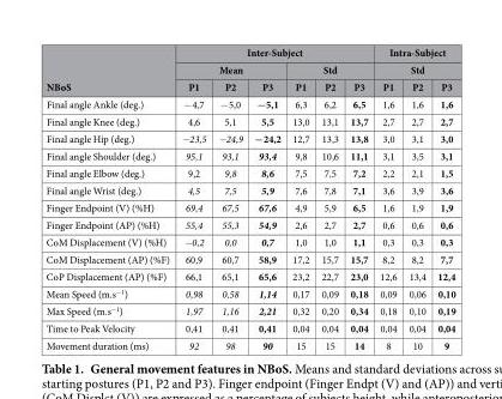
<table><thead><tr><td rowspan="3">NBoS</td><td colspan="6">Inter-Subject</td><td rowspan="2" colspan="3">Intra-Subject Std</td></tr><tr><td colspan="3">Mean</td><td colspan="3">Std</td></tr><tr><td>P1</td><td>P2</td><td>P3</td><td>P1</td><td>P2</td><td>P3</td><td>P1</td><td>P2</td><td>P3</td></tr></thead><tbody><tr><td>Final angle Ankle (deg.)</td><td>− 4,7</td><td>− 5,0</td><td>−5,1</td><td>6,3</td><td>6,2</td><td>6,5</td><td>1,6</td><td>1,6</td><td>1,6</td></tr><tr><td>Final angle Knee (deg.)</td><td>4,6</td><td>5,1</td><td>5,5</td><td>13,0</td><td>13,1</td><td>13,7</td><td>2,7</td><td>2,7</td><td>2,7</td></tr><tr><td>Final angle Hip (deg.)</td><td>−23,5</td><td>−24,9</td><td>−24,2</td><td>12,7</td><td>13,3</td><td>13,8</td><td>3,0</td><td>3,1</td><td>3,0</td></tr><tr><td>Final angle Shoulder (deg.)</td><td>95,1</td><td>93,1</td><td>93,4</td><td>9,8</td><td>10,6</td><td>11,1</td><td>3,1</td><td>3,5</td><td>3,1</td></tr><tr><td>Final angle Elbow (deg.)</td><td>9,2</td><td>9,8</td><td>8,6</td><td>7,5</td><td>7,5</td><td>7,2</td><td>2,2</td><td>2,1</td><td>1,5</td></tr><tr><td>Final angle Wrist (deg.)</td><td>4,5</td><td>7,5</td><td>5,9</td><td>7,6</td><td>7,8</td><td>7,1</td><td>3,6</td><td>3,9</td><td>3,6</td></tr><tr><td>Finger Endpoint (V) (%H)</td><td>69,4</td><td>67,5</td><td>67,6</td><td>4,9</td><td>5,9</td><td>6,5</td><td>1,6</td><td>1,9</td><td>1,9</td></tr><tr><td>Finger Endpoint (AP) (%H)</td><td>55,4</td><td>55,3</td><td>54,9</td><td>2,6</td><td>2,7</td><td>2,7</td><td>0,6</td><td>0,6</td><td>0,6</td></tr><tr><td>CoM Displacement (V) (%H)</td><td>−0,2</td><td>0,0</td><td>0,7</td><td>1,0</td><td>1,0</td><td>1,1</td><td>0,3</td><td>0,3</td><td>0,3</td></tr><tr><td>CoM Displacement (AP) (%F)</td><td>60,9</td><td>60,7</td><td>58,9</td><td>17,2</td><td>15,7</td><td>15,7</td><td>8,2</td><td>8,2</td><td>7,7</td></tr><tr><td>CoP Displacement (AP) (%F)</td><td>66,1</td><td>65,1</td><td>65,6</td><td>23,2</td><td>22,7</td><td>23,0</td><td>12,6</td><td>13,4</td><td>12,4</td></tr><tr><td>Mean Speed (m.s<sup>−1</sup>)</td><td>0,98</td><td>0,58</td><td>1,14</td><td>0,17</td><td>0,09</td><td>0,18</td><td>0,09</td><td>0,06</td><td>0,10</td></tr><tr><td>Max Speed (m.s<sup>−1</sup>)</td><td>1,97</td><td>1,16</td><td>2,21</td><td>0,32</td><td>0,20</td><td>0,34</td><td>0,18</td><td>0,10</td><td>0,19</td></tr><tr><td>Time to Peak Velocity</td><td>0,41</td><td>0,41</td><td>0,41</td><td>0,04</td><td>0,04</td><td>0,04</td><td>0,04</td><td>0,04</td><td>0,04</td></tr><tr><td>Movement duration (ms)</td><td>92</td><td>98</td><td>90</td><td>15</td><td>15</td><td>14</td><td>8</td><td>10</td><td>9</td></tr></tbody></table>